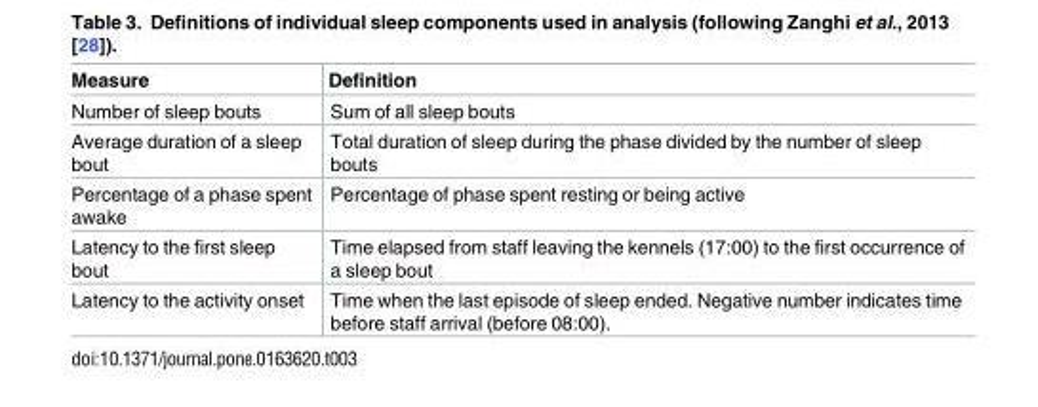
<table><thead><tr><td>Measure</td><td>Definition</td></tr></thead><tbody><tr><td>Number of sleep bouts</td><td>Sum of all sleep bouts</td></tr><tr><td>Average duration of a sleep bout</td><td>Total duration of sleep during the phase divided by the number of sleep bouts</td></tr><tr><td>Percentage of a phase spent awake</td><td>Percentage of phase spent resting or being active</td></tr><tr><td>Latency to the first sleep bout</td><td>Time elapsed from staff leaving the kennels (17:00) to the first occurrence of a sleep bout</td></tr><tr><td>Latency to the activity onset</td><td>Time when the last episode of sleep ended. Negative number indicates time before staff arrival (before 08:00).</td></tr></tbody></table>